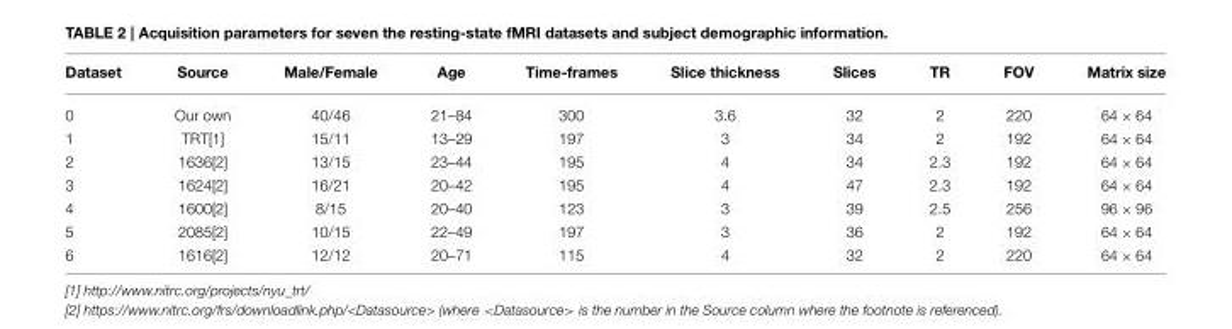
<table><thead><tr><td>Dataset</td><td>Source</td><td>Male/Female</td><td>Age</td><td>Time-frames</td><td>Slice thickness</td><td>Slices</td><td>TR</td><td>FOV</td><td>Matrix size</td></tr></thead><tbody><tr><td>0</td><td>Our own</td><td>40/46</td><td>21–84</td><td>300</td><td>3.6</td><td>32</td><td>2</td><td>220</td><td>64 × 64</td></tr><tr><td>1</td><td>TRT[1]</td><td>15/11</td><td>13–29</td><td>197</td><td>3</td><td>34</td><td>2</td><td>192</td><td>64 × 64</td></tr><tr><td>2</td><td>1636[2]</td><td>13/15</td><td>23–44</td><td>195</td><td>4</td><td>34</td><td>2.3</td><td>192</td><td>64 × 64</td></tr><tr><td>3</td><td>1624[2]</td><td>16/21</td><td>20–42</td><td>195</td><td>4</td><td>47</td><td>2.3</td><td>192</td><td>64 × 64</td></tr><tr><td>4</td><td>1600[2]</td><td>8/15</td><td>20–40</td><td>123</td><td>3</td><td>39</td><td>2.5</td><td>256</td><td>96 × 96</td></tr><tr><td>5</td><td>2085[2]</td><td>10/15</td><td>22–49</td><td>197</td><td>3</td><td>36</td><td>2</td><td>192</td><td>64 × 64</td></tr><tr><td>6</td><td>1616[2]</td><td>12/12</td><td>20–71</td><td>115</td><td>4</td><td>32</td><td>2</td><td>220</td><td>64 × 64</td></tr></tbody></table>